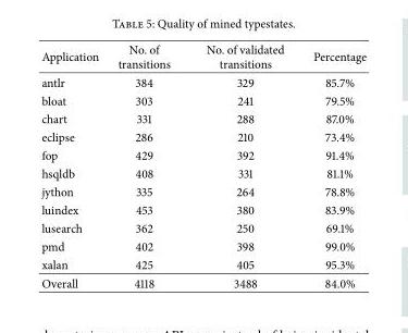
<table><thead><tr><td>Application</td><td>No. of transitions</td><td>No. of validated transitions</td><td>Percentage</td></tr></thead><tbody><tr><td>antlr</td><td>384</td><td>329</td><td>85.7%</td></tr><tr><td>bloat</td><td>303</td><td>241</td><td>79.5%</td></tr><tr><td>chart</td><td>331</td><td>288</td><td>87.0%</td></tr><tr><td>eclipse</td><td>286</td><td>210</td><td>73.4%</td></tr><tr><td>fop</td><td>429</td><td>392</td><td>91.4%</td></tr><tr><td>hsqldb</td><td>408</td><td>331</td><td>81.1%</td></tr><tr><td>jython</td><td>335</td><td>264</td><td>78.8%</td></tr><tr><td>luindex</td><td>453</td><td>380</td><td>83.9%</td></tr><tr><td>lusearch</td><td>362</td><td>250</td><td>69.1%</td></tr><tr><td>pmd</td><td>402</td><td>398</td><td>99.0%</td></tr><tr><td>xalan</td><td>425</td><td>405</td><td>95.3%</td></tr><tr><td>Overall</td><td>4118</td><td>3488</td><td>84.0%</td></tr></tbody></table>